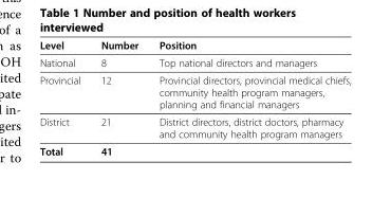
<table><thead><tr><td>Level</td><td>Number</td><td>Position</td></tr></thead><tbody><tr><td>National</td><td>8</td><td>Top national directors and managers</td></tr><tr><td>Provincial</td><td>12</td><td>Provincial directors, provincial medical chiefs, community health program managers, planning and financial managers</td></tr><tr><td>District</td><td>21</td><td>District directors, district doctors, pharmacy and community health program managers</td></tr><tr><td>Total</td><td>41</td><td></td></tr></tbody></table>